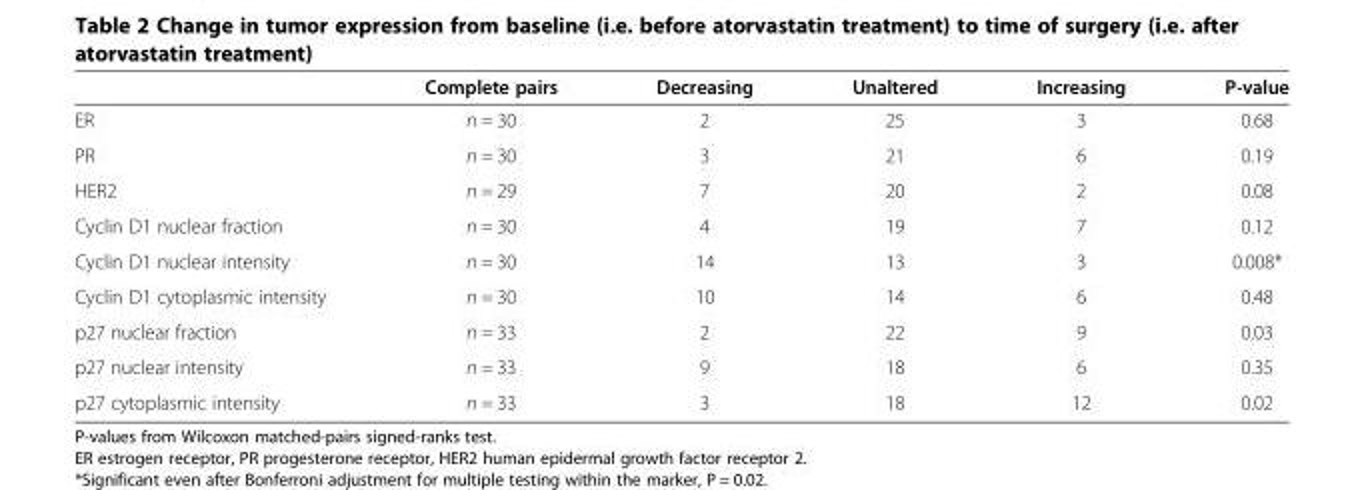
<table><thead><tr><td></td><td>Complete pairs</td><td>Decreasing</td><td>Unaltered</td><td>Increasing</td><td>P-value</td></tr></thead><tbody><tr><td>ER</td><td>n = 30</td><td>2</td><td>25</td><td>3</td><td>0.68</td></tr><tr><td>PR</td><td>n = 30</td><td>3</td><td>21</td><td>6</td><td>0.19</td></tr><tr><td>HER2</td><td>n = 29</td><td>7</td><td>20</td><td>2</td><td>0.08</td></tr><tr><td>Cyclin D1 nuclear fraction</td><td>n = 30</td><td>4</td><td>19</td><td>7</td><td>0.12</td></tr><tr><td>Cyclin D1 nuclear intensity</td><td>n = 30</td><td>14</td><td>13</td><td>3</td><td>0.008*</td></tr><tr><td>Cyclin D1 cytoplasmic intensity</td><td>n = 30</td><td>10</td><td>14</td><td>6</td><td>0.48</td></tr><tr><td>p27 nuclear fraction</td><td>n = 33</td><td>2</td><td>22</td><td>9</td><td>0.03</td></tr><tr><td>p27 nuclear intensity</td><td>n = 33</td><td>9</td><td>18</td><td>6</td><td>0.35</td></tr><tr><td>p27 cytoplasmic intensity</td><td>n = 33</td><td>3</td><td>18</td><td>12</td><td>0.02</td></tr></tbody></table>